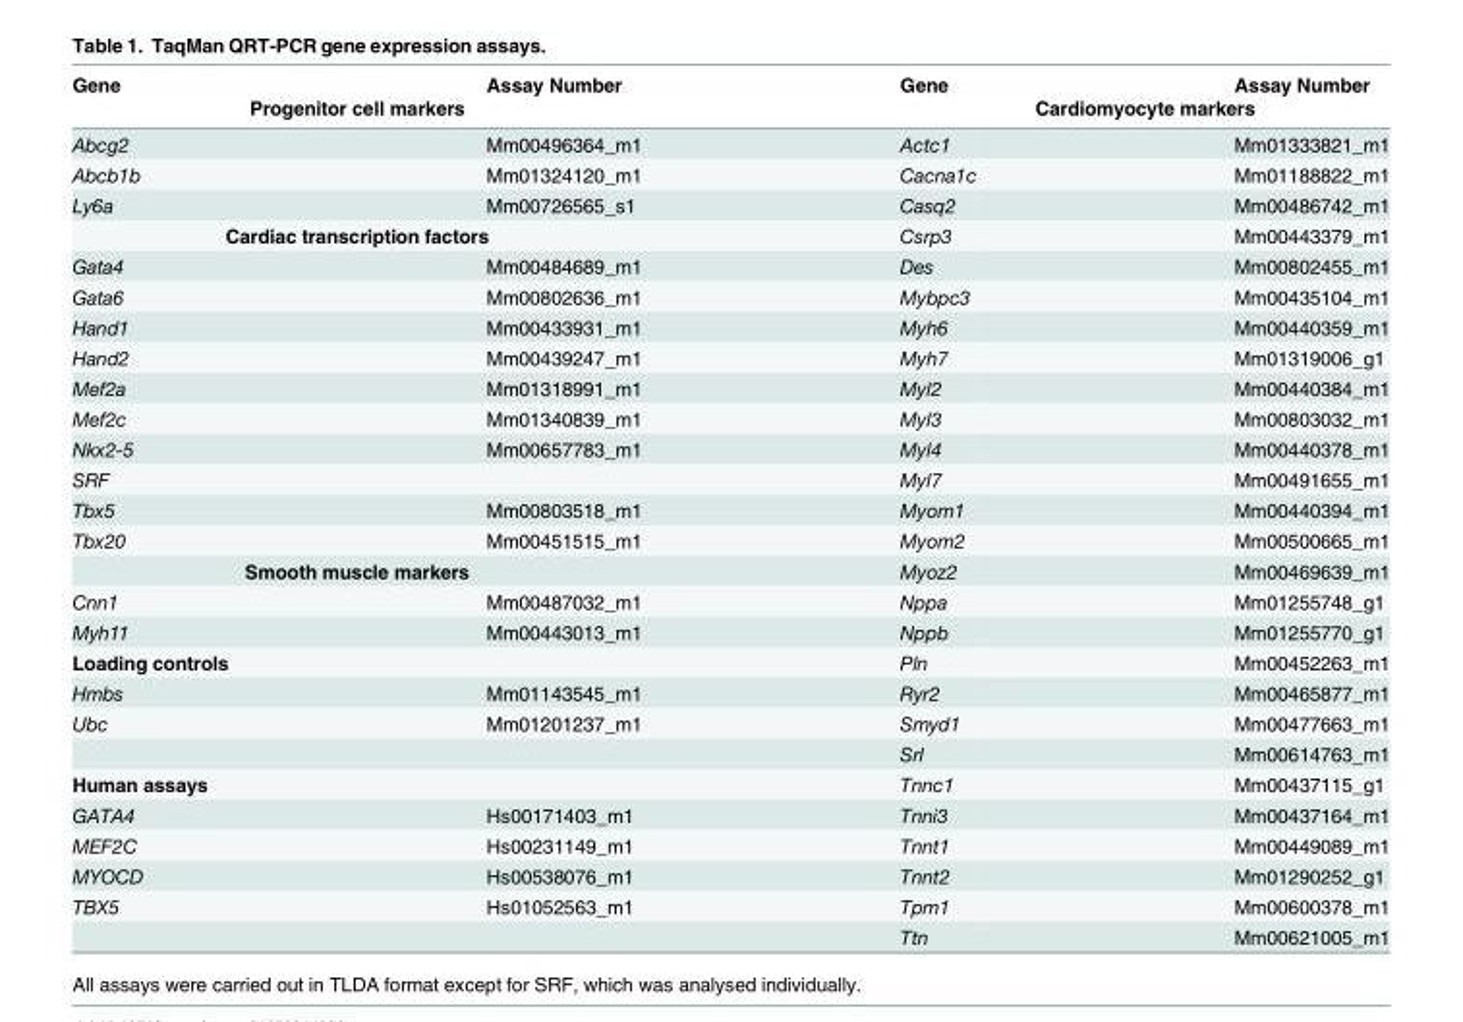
<table><thead><tr><td>Gene</td><td>Assay Number</td><td>Gene</td><td>Assay Number</td></tr><tr><td colspan="2">Progenitor cell markers</td><td colspan="2">Cardiomyocyte markers</td></tr></thead><tbody><tr><td>Abcg2</td><td>Mm00496364_m1</td><td>Actc1</td><td>Mm01333821_m1</td></tr><tr><td>Abcb1b</td><td>Mm01324120_m1</td><td>Cacna1c</td><td>Mm01188822_m1</td></tr><tr><td>Ly6a</td><td>Mm00726565_s1</td><td>Casq2</td><td>Mm00486742_m1</td></tr><tr><td colspan="2">Cardiac transcription factors</td><td>Csrp3</td><td>Mm00443379_m1</td></tr><tr><td>Gata4</td><td>Mm00484689_m1</td><td>Des</td><td>Mm00802455_m1</td></tr><tr><td>Gata6</td><td>Mm00802636_m1</td><td>Mybpc3</td><td>Mm00435104_m1</td></tr><tr><td>Hand1</td><td>Mm00433931_m1</td><td>Myh6</td><td>Mm00440359_m1</td></tr><tr><td>Hand2</td><td>Mm00439247_m1</td><td>Myh7</td><td>Mm01319006_g1</td></tr><tr><td>Mef2a</td><td>Mm01318991_m1</td><td>Myl2</td><td>Mm00440384_m1</td></tr><tr><td>Mef2c</td><td>Mm01340839_m1</td><td>Myl3</td><td>Mm00803032_m1</td></tr><tr><td>Nkx2-5</td><td>Mm00657783_m1</td><td>Myl4</td><td>Mm00440378_m1</td></tr><tr><td>SRF</td><td></td><td>Myl7</td><td>Mm00491655_m1</td></tr><tr><td>Tbx5</td><td>Mm00803518_m1</td><td>Myom1</td><td>Mm00440394_m1</td></tr><tr><td>Tbx20</td><td>Mm00451515_m1</td><td>Myom2</td><td>Mm00500665_m1</td></tr><tr><td colspan="2">Smooth muscle markers</td><td>Myoz2</td><td>Mm00469639_m1</td></tr><tr><td>Cnn1</td><td>Mm00487032_m1</td><td>Nppa</td><td>Mm01255748_g1</td></tr><tr><td>Myh11</td><td>Mm00443013_m1</td><td>Nppb</td><td>Mm01255770_g1</td></tr><tr><td>Loading controls</td><td></td><td>Pln</td><td>Mm00452263_m1</td></tr><tr><td>Hmbs</td><td>Mm01143545_m1</td><td>Ryr2</td><td>Mm00465877_m1</td></tr><tr><td rowspan="2">Ubc</td><td>Mm01201237_m1</td><td>Smyd1</td><td>Mm00477663_m1</td></tr><tr><td></td><td>Srl</td><td>Mm00614763_m1</td></tr><tr><td>Human assays</td><td></td><td>Tnnc1</td><td>Mm00437115_g1</td></tr><tr><td>GATA4</td><td>Hs00171403_m1</td><td>Tnni3</td><td>Mm00437164_m1</td></tr><tr><td>MEF2C</td><td>Hs00231149_m1</td><td>Tnnt1</td><td>Mm00449089_m1</td></tr><tr><td>MYOCD</td><td>Hs00538076_m1</td><td>Tnnt2</td><td>Mm01290252_g1</td></tr><tr><td rowspan="2">TBX5</td><td>Hs01052563_m1</td><td>Tpm1</td><td>Mm00600378_m1</td></tr><tr><td></td><td>Ttn</td><td>Mm00621005_m1</td></tr></tbody></table>